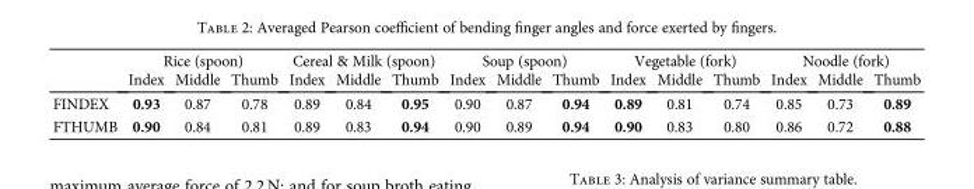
<table><thead><tr><td rowspan="2"></td><td colspan="3">Rice (spoon)</td><td colspan="3">Cereal &amp; Milk (spoon)</td><td colspan="3">Soup (spoon)</td><td colspan="3">Vegetable (fork)</td><td colspan="3">Noodle (fork)</td></tr><tr><td>Index</td><td>Middle</td><td>Thumb</td><td>Index</td><td>Middle</td><td>Thumb</td><td>Index</td><td>Middle</td><td>Thumb</td><td>Index</td><td>Middle</td><td>Thumb</td><td>Index</td><td>Middle</td><td>Thumb</td></tr></thead><tbody><tr><td>FINDEX</td><td>0.93</td><td>0.87</td><td>0.78</td><td>0.89</td><td>0.84</td><td>0.95</td><td>0.90</td><td>0.87</td><td>0.94</td><td>0.89</td><td>0.81</td><td>0.74</td><td>0.85</td><td>0.73</td><td>0.89</td></tr><tr><td>FTHUMB</td><td>0.90</td><td>0.84</td><td>0.81</td><td>0.89</td><td>0.83</td><td>0.94</td><td>0.90</td><td>0.89</td><td>0.94</td><td>0.90</td><td>0.83</td><td>0.80</td><td>0.86</td><td>0.72</td><td>0.88</td></tr></tbody></table>